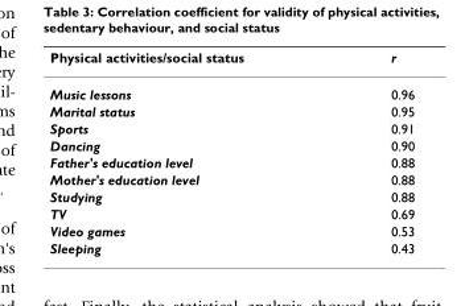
<table><thead><tr><td>Physical activities/social status</td><td>r</td></tr></thead><tbody><tr><td>Music lessons</td><td>0.96</td></tr><tr><td>Marital status</td><td>0.95</td></tr><tr><td>Sports</td><td>0.91</td></tr><tr><td>Dancing</td><td>0.90</td></tr><tr><td>Father&#x27;s education level</td><td>0.88</td></tr><tr><td>Mother&#x27;s education level</td><td>0.88</td></tr><tr><td>Studying</td><td>0.88</td></tr><tr><td>TV</td><td>0.69</td></tr><tr><td>Video games</td><td>0.53</td></tr><tr><td>Sleeping</td><td>0.43</td></tr></tbody></table>